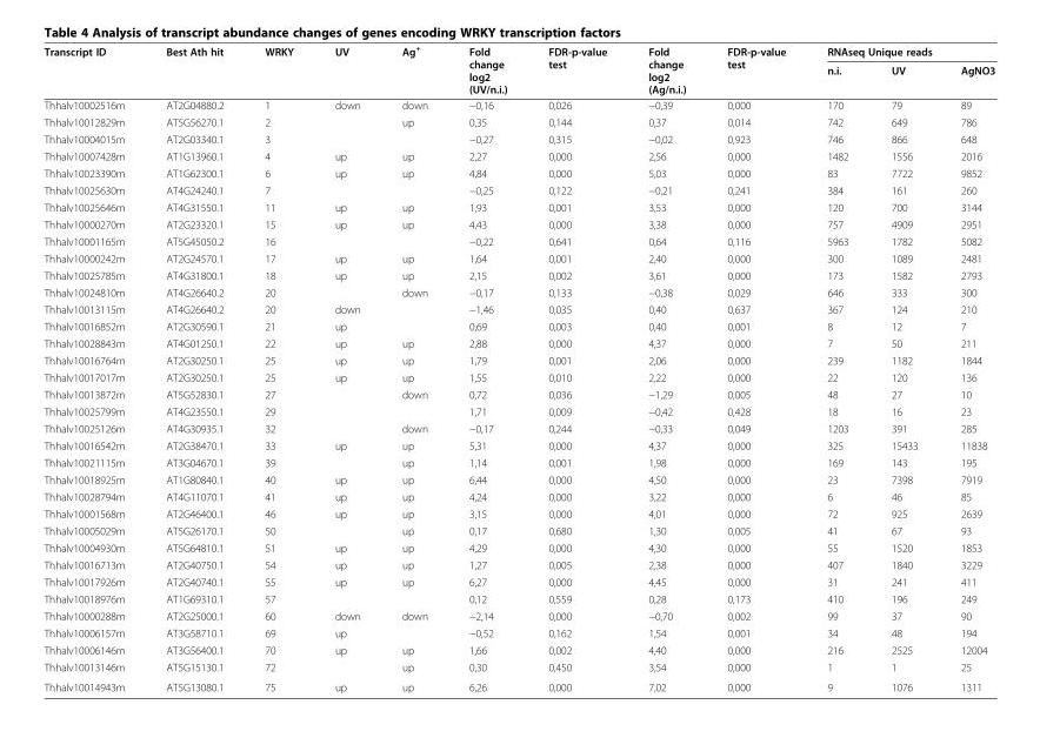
<table><thead><tr><td rowspan="2">Transcript ID</td><td rowspan="2">Best Ath hit</td><td rowspan="2">WRKY</td><td rowspan="2">UV</td><td rowspan="2">Ag<sup>+</sup></td><td rowspan="2">Fold change log2 (UV/n.i.)</td><td rowspan="2">FDR-p-value test</td><td rowspan="2">Fold change log2 (Ag/n.i.)</td><td rowspan="2">FDR-p-value test</td><td colspan="3">RNAseq Unique reads</td></tr><tr><td>n.i.</td><td>UV</td><td>AgNO3</td></tr></thead><tbody><tr><td>Thhalv10002516m</td><td>AT2G04880.2</td><td>1</td><td>down</td><td>down</td><td>−0,16</td><td>0,026</td><td>−0,39</td><td>0,000</td><td>170</td><td>79</td><td>89</td></tr><tr><td>Thhalv10012829m</td><td>AT5G56270.1</td><td>2</td><td></td><td>up</td><td>0,35</td><td>0,144</td><td>0,37</td><td>0,014</td><td>742</td><td>649</td><td>786</td></tr><tr><td>Thhalv10004015m</td><td>AT2G03340.1</td><td>3</td><td></td><td></td><td>−0,27</td><td>0,315</td><td>−0,02</td><td>0,923</td><td>746</td><td>866</td><td>648</td></tr><tr><td>Thhalv10007428m</td><td>AT1G13960.1</td><td>4</td><td>up</td><td>up</td><td>2,27</td><td>0,000</td><td>2,56</td><td>0,000</td><td>1482</td><td>1556</td><td>2016</td></tr><tr><td>Thhalv10023390m</td><td>AT1G62300.1</td><td>6</td><td>up</td><td>up</td><td>4,84</td><td>0,000</td><td>5,03</td><td>0,000</td><td>83</td><td>7722</td><td>9852</td></tr><tr><td>Thhalv10025630m</td><td>AT4G24240.1</td><td>7</td><td></td><td></td><td>−0,25</td><td>0,122</td><td>−0,21</td><td>0,241</td><td>384</td><td>161</td><td>260</td></tr><tr><td>Thhalv10025646m</td><td>AT4G31550.1</td><td>11</td><td>up</td><td>up</td><td>1,93</td><td>0,001</td><td>3,53</td><td>0,000</td><td>120</td><td>700</td><td>3144</td></tr><tr><td>Thhalv10000270m</td><td>AT2G23320.1</td><td>15</td><td>up</td><td>up</td><td>4,43</td><td>0,000</td><td>3,38</td><td>0,000</td><td>757</td><td>4909</td><td>2951</td></tr><tr><td>Thhalv10001165m</td><td>AT5G45050.2</td><td>16</td><td></td><td></td><td>−0,22</td><td>0,641</td><td>0,64</td><td>0,116</td><td>5963</td><td>1782</td><td>5082</td></tr><tr><td>Thhalv10000242m</td><td>AT2G24570.1</td><td>17</td><td>up</td><td>up</td><td>1,64</td><td>0,001</td><td>2,40</td><td>0,000</td><td>300</td><td>1089</td><td>2481</td></tr><tr><td>Thhalv10025785m</td><td>AT4G31800.1</td><td>18</td><td>up</td><td>up</td><td>2,15</td><td>0,002</td><td>3,61</td><td>0,000</td><td>173</td><td>1582</td><td>2793</td></tr><tr><td>Thhalv10024810m</td><td>AT4G26640.2</td><td>20</td><td></td><td>down</td><td>−0,17</td><td>0,133</td><td>−0,38</td><td>0,029</td><td>646</td><td>333</td><td>300</td></tr><tr><td>Thhalv10013115m</td><td>AT4G26640.2</td><td>20</td><td>down</td><td></td><td>−1,46</td><td>0,035</td><td>0,40</td><td>0,637</td><td>367</td><td>124</td><td>210</td></tr><tr><td>Thhalv10016852m</td><td>AT2G30590.1</td><td>21</td><td>up</td><td></td><td>0,69</td><td>0,003</td><td>0,40</td><td>0,001</td><td>8</td><td>12</td><td>7</td></tr><tr><td>Thhalv10028843m</td><td>AT4G01250.1</td><td>22</td><td>up</td><td>up</td><td>2,88</td><td>0,000</td><td>4,37</td><td>0,000</td><td>7</td><td>50</td><td>211</td></tr><tr><td>Thhalv10016764m</td><td>AT2G30250.1</td><td>25</td><td>up</td><td>up</td><td>1,79</td><td>0,001</td><td>2,06</td><td>0,000</td><td>239</td><td>1182</td><td>1844</td></tr><tr><td>Thhalv10017017m</td><td>AT2G30250.1</td><td>25</td><td>up</td><td>up</td><td>1,55</td><td>0,010</td><td>2,22</td><td>0,000</td><td>22</td><td>120</td><td>136</td></tr><tr><td>Thhalv10013872m</td><td>AT5G52830.1</td><td>27</td><td></td><td>down</td><td>0,72</td><td>0,036</td><td>−1,29</td><td>0,005</td><td>48</td><td>27</td><td>10</td></tr><tr><td>Thhalv10025799m</td><td>AT4G23550.1</td><td>29</td><td></td><td></td><td>1,71</td><td>0,009</td><td>−0,42</td><td>0,428</td><td>18</td><td>16</td><td>23</td></tr><tr><td>Thhalv10025126m</td><td>AT4G30935.1</td><td>32</td><td></td><td>down</td><td>−0,17</td><td>0,244</td><td>−0,33</td><td>0,049</td><td>1203</td><td>391</td><td>285</td></tr><tr><td>Thhalv10016542m</td><td>AT2G38470.1</td><td>33</td><td>up</td><td>up</td><td>5,31</td><td>0,000</td><td>4,37</td><td>0,000</td><td>325</td><td>15433</td><td>11838</td></tr><tr><td>Thhalv10021115m</td><td>AT3G04670.1</td><td>39</td><td></td><td>up</td><td>1,14</td><td>0,001</td><td>1,98</td><td>0,000</td><td>169</td><td>143</td><td>195</td></tr><tr><td>Thhalv10018925m</td><td>AT1G80840.1</td><td>40</td><td>up</td><td>up</td><td>6,44</td><td>0,000</td><td>4,50</td><td>0,000</td><td>23</td><td>7398</td><td>7919</td></tr><tr><td>Thhalv10028794m</td><td>AT4G11070.1</td><td>41</td><td>up</td><td>up</td><td>4,24</td><td>0,000</td><td>3,22</td><td>0,000</td><td>6</td><td>46</td><td>85</td></tr><tr><td>Thhalv10001568m</td><td>AT2G46400.1</td><td>46</td><td>up</td><td>up</td><td>3,15</td><td>0,000</td><td>4,01</td><td>0,000</td><td>72</td><td>925</td><td>2639</td></tr><tr><td>Thhalv10005029m</td><td>AT5G26170.1</td><td>50</td><td></td><td>up</td><td>0,17</td><td>0,680</td><td>1,30</td><td>0,005</td><td>41</td><td>67</td><td>93</td></tr><tr><td>Thhalv10004930m</td><td>AT5G64810.1</td><td>51</td><td>up</td><td>up</td><td>4,29</td><td>0,000</td><td>4,30</td><td>0,000</td><td>55</td><td>1520</td><td>1853</td></tr><tr><td>Thhalv10016713m</td><td>AT2G40750.1</td><td>54</td><td>up</td><td>up</td><td>1,27</td><td>0,005</td><td>2,38</td><td>0,000</td><td>407</td><td>1840</td><td>3229</td></tr><tr><td>Thhalv10017926m</td><td>AT2G40740.1</td><td>55</td><td>up</td><td>up</td><td>6,27</td><td>0,000</td><td>4,45</td><td>0,000</td><td>31</td><td>241</td><td>411</td></tr><tr><td>Thhalv10018976m</td><td>AT1G69310.1</td><td>57</td><td></td><td></td><td>0,12</td><td>0,559</td><td>0,28</td><td>0,173</td><td>410</td><td>196</td><td>249</td></tr><tr><td>Thhalv10000288m</td><td>AT2G25000.1</td><td>60</td><td>down</td><td>down</td><td>−2,14</td><td>0,000</td><td>−0,70</td><td>0,002</td><td>99</td><td>37</td><td>90</td></tr><tr><td>Thhalv10006157m</td><td>AT3G58710.1</td><td>69</td><td>up</td><td></td><td>−0,52</td><td>0,162</td><td>1,54</td><td>0,001</td><td>34</td><td>48</td><td>194</td></tr><tr><td>Thhalv10006146m</td><td>AT3G56400.1</td><td>70</td><td>up</td><td>up</td><td>1,66</td><td>0,002</td><td>4,40</td><td>0,000</td><td>216</td><td>2525</td><td>12004</td></tr><tr><td>Thhalv10013146m</td><td>AT5G15130.1</td><td>72</td><td></td><td>up</td><td>0,30</td><td>0,450</td><td>3,54</td><td>0,000</td><td>1</td><td>1</td><td>25</td></tr><tr><td>Thhalv10014943m</td><td>AT5G13080.1</td><td>75</td><td>up</td><td>up</td><td>6,26</td><td>0,000</td><td>7,02</td><td>0,000</td><td>9</td><td>1076</td><td>1311</td></tr></tbody></table>